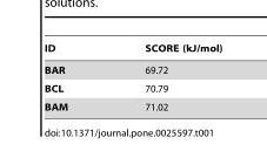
<table><thead><tr><td>ID</td><td>SCORE (kJ/mol)</td></tr></thead><tbody><tr><td>BAR</td><td>69.72</td></tr><tr><td>BCL</td><td>70.79</td></tr><tr><td>BAM</td><td>71.02</td></tr></tbody></table>